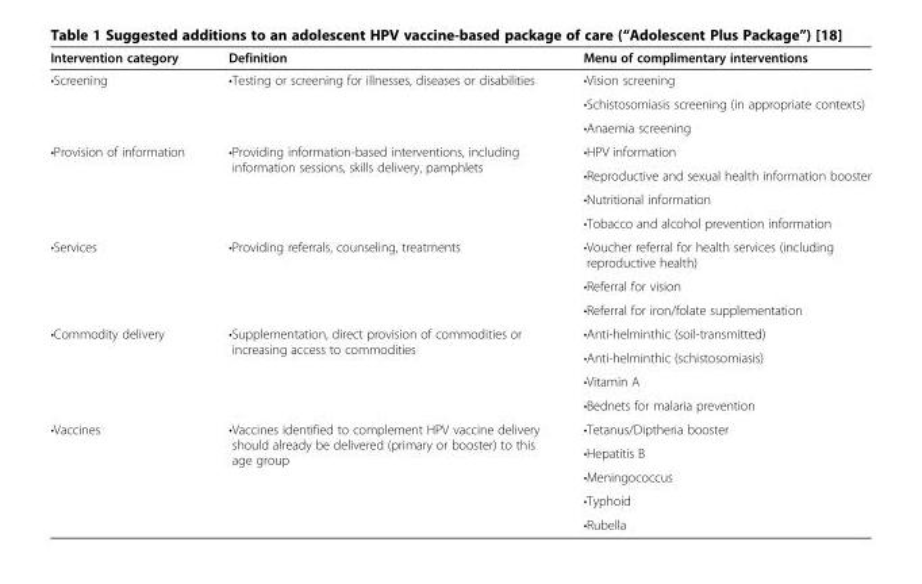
<table><thead><tr><td>Intervention category</td><td>Definition</td><td>Menu of complimentary interventions</td></tr></thead><tbody><tr><td rowspan="3">•Screening</td><td rowspan="3">•Testing or screening for illnesses, diseases or disabilities</td><td>•Vision screening</td></tr><tr><td>•Schistosomiasis screening (in appropriate contexts)</td></tr><tr><td>•Anaemia screening</td></tr><tr><td rowspan="4">•Provision of information</td><td rowspan="4">•Providing information-based interventions, including information sessions, skills delivery, pamphlets</td><td>•HPV information</td></tr><tr><td>•Reproductive and sexual health information booster</td></tr><tr><td>•Nutritional information</td></tr><tr><td>•Tobacco and alcohol prevention information</td></tr><tr><td rowspan="3">•Services</td><td rowspan="3">•Providing referrals, counseling, treatments</td><td>•Voucher referral for health services (including reproductive health)</td></tr><tr><td>•Referral for vision</td></tr><tr><td>•Referral for iron/folate supplementation</td></tr><tr><td rowspan="4">•Commodity delivery</td><td rowspan="4">•Supplementation, direct provision of commodities or increasing access to commodities</td><td>•Anti-helminthic (soil-transmitted)</td></tr><tr><td>•Anti-helminthic (schistosomiasis)</td></tr><tr><td>•Vitamin A</td></tr><tr><td>•Bednets for malaria prevention</td></tr><tr><td rowspan="5">•Vaccines</td><td rowspan="5">•Vaccines identified to complement HPV vaccine delivery should already be delivered (primary or booster) to this age group</td><td>•Tetanus/Diptheria booster</td></tr><tr><td>•Hepatitis B</td></tr><tr><td>•Meningococcus</td></tr><tr><td>•Typhoid</td></tr><tr><td>•Rubella</td></tr></tbody></table>